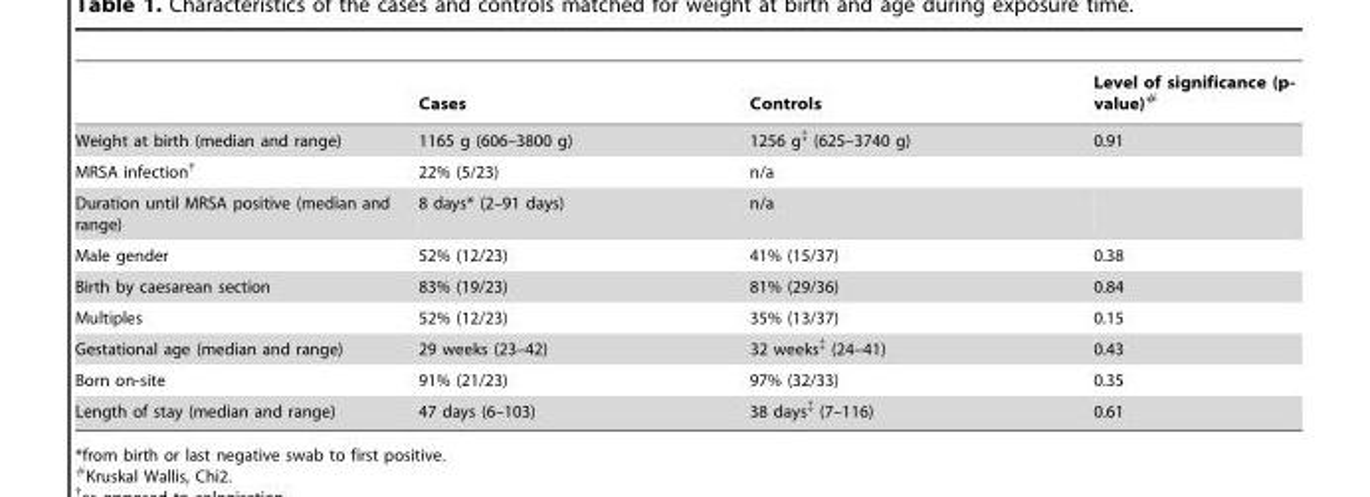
<table><thead><tr><td></td><td>Cases</td><td>Controls</td><td>Level of significance (p- value)#</td></tr></thead><tbody><tr><td>Weight at birth (median and range)</td><td>1165 g (606–3800 g)</td><td>1256 g‡ (625–3740 g)</td><td>0.91</td></tr><tr><td>MRSA infection†</td><td>22% (5/23)</td><td>n/a</td><td></td></tr><tr><td>Duration until MRSA positive (median and range)</td><td>8 days* (2–91 days)</td><td>n/a</td><td></td></tr><tr><td>Male gender</td><td>52% (12/23)</td><td>41% (15/37)</td><td>0.38</td></tr><tr><td>Birth by caesarean section</td><td>83% (19/23)</td><td>81% (29/36)</td><td>0.84</td></tr><tr><td>Multiples</td><td>52% (12/23)</td><td>35% (13/37)</td><td>0.15</td></tr><tr><td>Gestational age (median and range)</td><td>29 weeks (23–42)</td><td>32 weeks‡ (24–41)</td><td>0.43</td></tr><tr><td>Born on-site</td><td>91% (21/23)</td><td>97% (32/33)</td><td>0.35</td></tr><tr><td>Length of stay (median and range)</td><td>47 days (6–103)</td><td>38 days‡ (7–116)</td><td>0.61</td></tr></tbody></table>